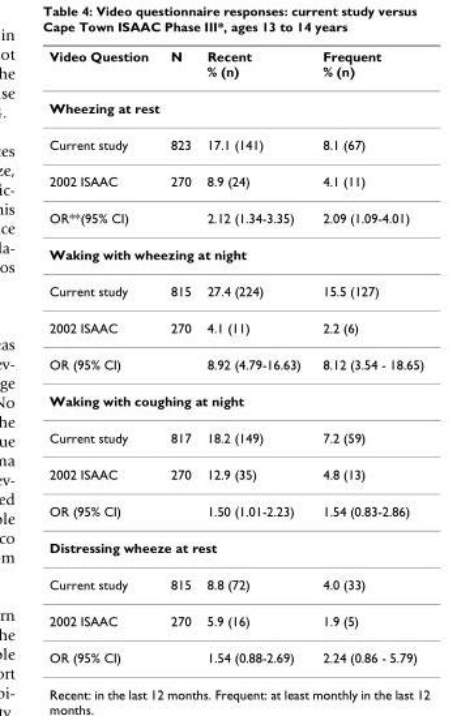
<table><thead><tr><td>Video Question</td><td>N</td><td>Recent % (n)</td><td>Frequent % (n)</td></tr></thead><tbody><tr><td colspan="4">Wheezing at rest</td></tr><tr><td>Current study</td><td>823</td><td>17.1 (141)</td><td>8.1 (67)</td></tr><tr><td>2002 ISAAC</td><td>270</td><td>8.9 (24)</td><td>4.1 (11)</td></tr><tr><td>OR**(95% CI)</td><td></td><td>2.12 (1.34-3.35)</td><td>2.09 (1.09-4.01)</td></tr><tr><td colspan="4">Waking with wheezing at night</td></tr><tr><td>Current study</td><td>815</td><td>27.4 (224)</td><td>15.5 (127)</td></tr><tr><td>2002 ISAAC</td><td>270</td><td>4.1 (11)</td><td>2.2 (6)</td></tr><tr><td>OR (95% CI)</td><td></td><td>8.92 (4.79-16.63)</td><td>8.12 (3.54 - 18.65)</td></tr><tr><td colspan="4">Waking with coughing at night</td></tr><tr><td>Current study</td><td>817</td><td>18.2 (149)</td><td>7.2 (59)</td></tr><tr><td>2002 ISAAC</td><td>270</td><td>12.9 (35)</td><td>4.8 (13)</td></tr><tr><td>OR (95% CI)</td><td></td><td>1.50 (1.01-2.23)</td><td>1.54 (0.83-2.86)</td></tr><tr><td colspan="4">Distressing wheeze at rest</td></tr><tr><td>Current study</td><td>815</td><td>8.8 (72)</td><td>4.0 (33)</td></tr><tr><td>2002 ISAAC</td><td>270</td><td>5.9 (16)</td><td>1.9 (5)</td></tr><tr><td>OR (95% CI)</td><td></td><td>1.54 (0.88-2.69)</td><td>2.24 (0.86 - 5.79)</td></tr></tbody></table>